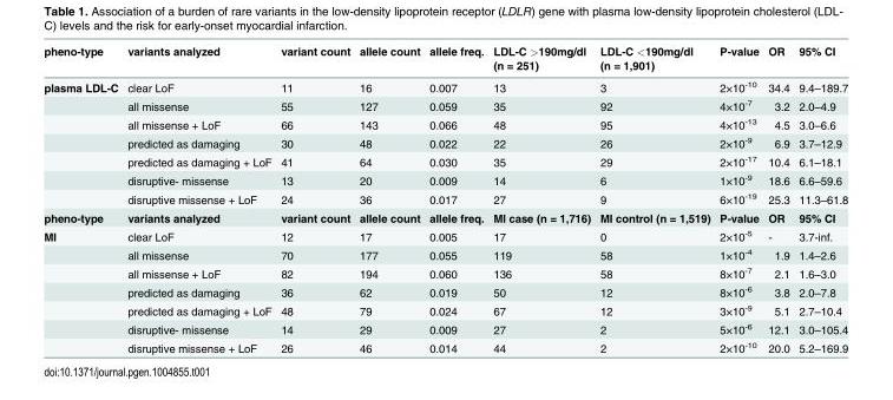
<table><thead><tr><td>pheno-type</td><td>variants analyzed</td><td>variant count</td><td>allele count</td><td>allele freq.</td><td>LDL-C &gt;190mg/dl (n = 251)</td><td>LDL-C &lt;190mg/dl (n = 1,901)</td><td>P-value</td><td>OR</td><td>95% CI</td></tr></thead><tbody><tr><td rowspan="7">plasma LDL-C</td><td>clear LoF</td><td>11</td><td>16</td><td>0.007</td><td>13</td><td>3</td><td>2×10<sup>-10</sup></td><td>34.4</td><td>9.4–189.7</td></tr><tr><td>all missense</td><td>55</td><td>127</td><td>0.059</td><td>35</td><td>92</td><td>4×10<sup>-7</sup></td><td>3.2</td><td>2.0–4.9</td></tr><tr><td>all missense + LoF</td><td>66</td><td>143</td><td>0.066</td><td>48</td><td>95</td><td>4×10<sup>-13</sup></td><td>4.5</td><td>3.0–6.6</td></tr><tr><td>predicted as damaging</td><td>30</td><td>48</td><td>0.022</td><td>22</td><td>26</td><td>2×10<sup>-9</sup></td><td>6.9</td><td>3.7–12.9</td></tr><tr><td>predicted as damaging + LoF</td><td>41</td><td>64</td><td>0.030</td><td>35</td><td>29</td><td>2×10<sup>-17</sup></td><td>10.4</td><td>6.1–18.1</td></tr><tr><td>disruptive- missense</td><td>13</td><td>20</td><td>0.009</td><td>14</td><td>6</td><td>1×10<sup>-9</sup></td><td>18.6</td><td>6.6–59.6</td></tr><tr><td>disruptive missense + LoF</td><td>24</td><td>36</td><td>0.017</td><td>27</td><td>9</td><td>6×10<sup>-19</sup></td><td>25.3</td><td>11.3–61.8</td></tr><tr><td>pheno-type</td><td>variants analyzed</td><td>variant count</td><td>allele count</td><td>allele freq.</td><td>MI case (n = 1,716)</td><td>MI control (n = 1,519)</td><td>P-value</td><td>OR</td><td>95% CI</td></tr><tr><td rowspan="7">MI</td><td>clear LoF</td><td>12</td><td>17</td><td>0.005</td><td>17</td><td>0</td><td>2×10<sup>-5</sup></td><td>-</td><td>3.7-inf.</td></tr><tr><td>all missense</td><td>70</td><td>177</td><td>0.055</td><td>119</td><td>58</td><td>1×10<sup>-4</sup></td><td>1.9</td><td>1.4–2.6</td></tr><tr><td>all missense + LoF</td><td>82</td><td>194</td><td>0.060</td><td>136</td><td>58</td><td>8×10<sup>-7</sup></td><td>2.1</td><td>1.6–3.0</td></tr><tr><td>predicted as damaging</td><td>36</td><td>62</td><td>0.019</td><td>50</td><td>12</td><td>8×10<sup>-6</sup></td><td>3.8</td><td>2.0–7.8</td></tr><tr><td>predicted as damaging + LoF</td><td>48</td><td>79</td><td>0.024</td><td>67</td><td>12</td><td>3×10<sup>-9</sup></td><td>5.1</td><td>2.7–10.4</td></tr><tr><td>disruptive- missense</td><td>14</td><td>29</td><td>0.009</td><td>27</td><td>2</td><td>5×10<sup>-6</sup></td><td>12.1</td><td>3.0–105.4</td></tr><tr><td>disruptive missense + LoF</td><td>26</td><td>46</td><td>0.014</td><td>44</td><td>2</td><td>2×10<sup>-10</sup></td><td>20.0</td><td>5.2–169.9</td></tr></tbody></table>